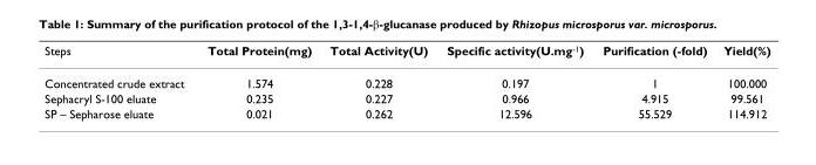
<table><thead><tr><td>Steps</td><td>Total Protein(mg)</td><td>Total Activity(U)</td><td>Specific activity(U.mg<sup>-1</sup>)</td><td>Purification (-fold)</td><td>Yield(%)</td></tr></thead><tbody><tr><td>Concentrated crude extract</td><td>1.574</td><td>0.228</td><td>0.197</td><td>1</td><td>100.000</td></tr><tr><td>Sephacryl S-100 eluate</td><td>0.235</td><td>0.227</td><td>0.966</td><td>4.915</td><td>99.561</td></tr><tr><td>SP – Sepharose eluate</td><td>0.021</td><td>0.262</td><td>12.596</td><td>55.529</td><td>114.912</td></tr></tbody></table>